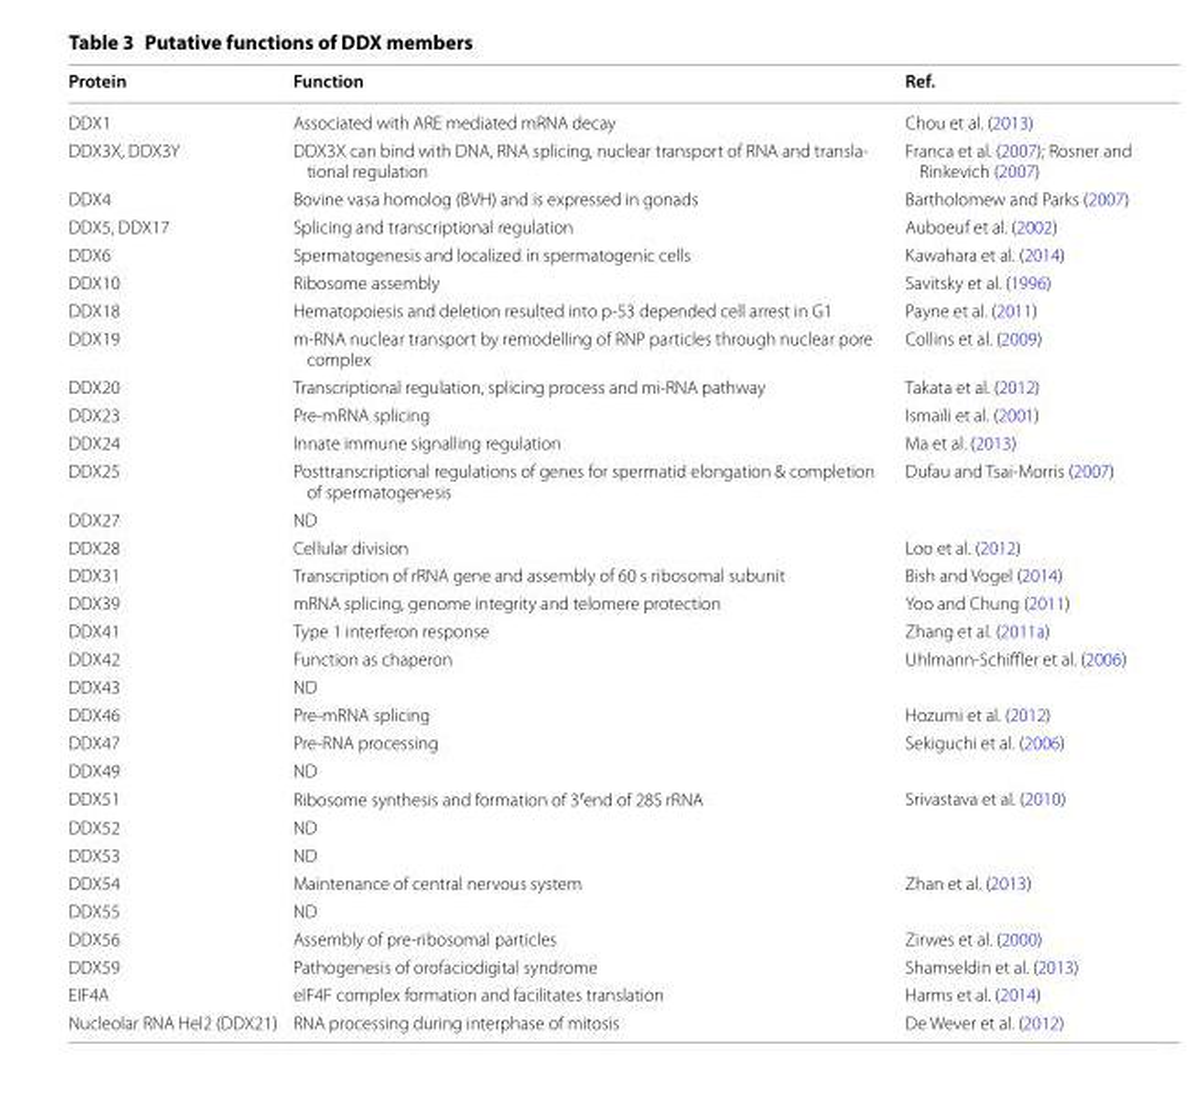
<table><thead><tr><td>Protein</td><td>Function</td><td>Ref.</td></tr></thead><tbody><tr><td>DDX1</td><td>Associated with ARE mediated mRNA decay</td><td>Chou et al. (2013)</td></tr><tr><td>DDX3X, DDX3Y</td><td>DDX3X can bind with DNA, RNA splicing, nuclear transport of RNA and transla- tional regulation</td><td>Franca et al. (2007); Rosner and Rinkevich (2007)</td></tr><tr><td>DDX4</td><td>Bovine vasa homolog (BVH) and is expressed in gonads</td><td>Bartholomew and Parks (2007)</td></tr><tr><td>DDX5, DDX17</td><td>Splicing and transcriptional regulation</td><td>Auboeuf et al. (2002)</td></tr><tr><td>DDX6</td><td>Spermatogenesis and localized in spermatogenic cells</td><td>Kawahara et al. (2014)</td></tr><tr><td>DDX10</td><td>Ribosome assembly</td><td>Savitsky et al. (1996)</td></tr><tr><td>DDX18</td><td>Hematopoiesis and deletion resulted into p-53 depended cell arrest in G1</td><td>Payne et al. (2011)</td></tr><tr><td>DDX19</td><td>m-RNA nuclear transport by remodelling of RNP particles through nuclear pore complex</td><td>Collins et al. (2009)</td></tr><tr><td>DDX20</td><td>Transcriptional regulation, splicing process and mi-RNA pathway</td><td>Takata et al. (2012)</td></tr><tr><td>DDX23</td><td>Pre-mRNA splicing</td><td>Ismaïli et al. (2001)</td></tr><tr><td>DDX24</td><td>Innate immune signalling regulation</td><td>Ma et al. (2013)</td></tr><tr><td>DDX25</td><td>Posttranscriptional regulations of genes for spermatid elongation &amp; completion of spermatogenesis</td><td>Dufau and Tsai-Morris (2007)</td></tr><tr><td>DDX27</td><td>ND</td><td></td></tr><tr><td>DDX28</td><td>Cellular division</td><td>Loo et al. (2012)</td></tr><tr><td>DDX31</td><td>Transcription of rRNA gene and assembly of 60 s ribosomal subunit</td><td>Bish and Vogel (2014)</td></tr><tr><td>DDX39</td><td>mRNA splicing, genome integrity and telomere protection</td><td>Yoo and Chung (2011)</td></tr><tr><td>DDX41</td><td>Type 1 interferon response</td><td>Zhang et al. (2011a)</td></tr><tr><td>DDX42</td><td>Function as chaperon</td><td>Uhlmann-Schiffler et al. (2006)</td></tr><tr><td>DDX43</td><td>ND</td><td></td></tr><tr><td>DDX46</td><td>Pre-mRNA splicing</td><td>Hozumi et al. (2012)</td></tr><tr><td>DDX47</td><td>Pre-RNA processing</td><td>Sekiguchi et al. (2006)</td></tr><tr><td>DDX49</td><td>ND</td><td></td></tr><tr><td>DDX51</td><td>Ribosome synthesis and formation of 3′end of 28S rRNA</td><td>Srivastava et al. (2010)</td></tr><tr><td>DDX52</td><td>ND</td><td></td></tr><tr><td>DDX53</td><td>ND</td><td></td></tr><tr><td>DDX54</td><td>Maintenance of central nervous system</td><td>Zhan et al. (2013)</td></tr><tr><td>DDX55</td><td>ND</td><td></td></tr><tr><td>DDX56</td><td>Assembly of pre-ribosomal particles</td><td>Zirwes et al. (2000)</td></tr><tr><td>DDX59</td><td>Pathogenesis of orofaciodigital syndrome</td><td>Shamseldin et al. (2013)</td></tr><tr><td>EIF4A</td><td>eIF4F complex formation and facilitates translation</td><td>Harms et al. (2014)</td></tr><tr><td>Nucleolar RNA Hel2 (DDX21)</td><td>RNA processing during interphase of mitosis</td><td>De Wever et al. (2012)</td></tr></tbody></table>